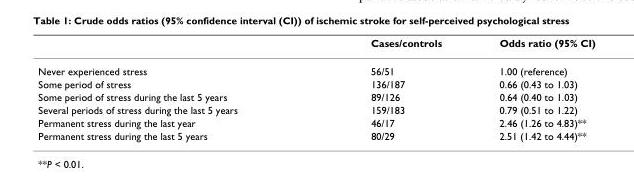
<table><thead><tr><td></td><td>Cases/controls</td><td>Odds ratio (95% CI)</td></tr></thead><tbody><tr><td>Never experienced stress</td><td>56/51</td><td>1.00 (reference)</td></tr><tr><td>Some period of stress</td><td>136/187</td><td>0.66 (0.43 to 1.03)</td></tr><tr><td>Some period of stress during the last 5 years</td><td>89/126</td><td>0.64 (0.40 to 1.03)</td></tr><tr><td>Several periods of stress during the last 5 years</td><td>159/183</td><td>0.79 (0.51 to 1.22)</td></tr><tr><td>Permanent stress during the last year</td><td>46/17</td><td>2.46 (1.26 to 4.83)**</td></tr><tr><td>Permanent stress during the last 5 years</td><td>80/29</td><td>2.51 (1.42 to 4.44)**</td></tr></tbody></table>